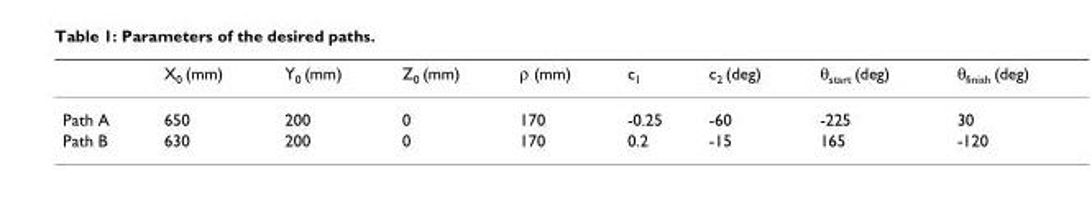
<table><thead><tr><td></td><td>X<sub>0</sub> (mm)</td><td>Y<sub>0</sub> (mm)</td><td>Z<sub>0</sub> (mm)</td><td>ρ (mm)</td><td>c<sub>1</sub></td><td>c<sub>2</sub> (deg)</td><td>θ<sub>start</sub> (deg)</td><td>θ<sub>finish</sub> (deg)</td></tr></thead><tbody><tr><td>Path A</td><td>650</td><td>200</td><td>0</td><td>170</td><td>-0.25</td><td>-60</td><td>-225</td><td>30</td></tr><tr><td>Path B</td><td>630</td><td>200</td><td>0</td><td>170</td><td>0.2</td><td>-15</td><td>165</td><td>-120</td></tr></tbody></table>